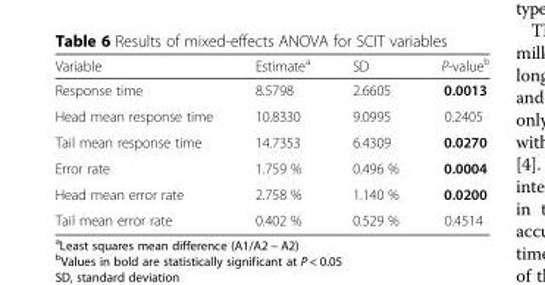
<table><thead><tr><td>Variable</td><td>Estimate<sup>a</sup></td><td>SD</td><td>P-value<sup>b</sup></td></tr></thead><tbody><tr><td>Response time</td><td>8.5798</td><td>2.6605</td><td>0.0013</td></tr><tr><td>Head mean response time</td><td>10.8330</td><td>9.0995</td><td>0.2405</td></tr><tr><td>Tail mean response time</td><td>14.7353</td><td>6.4309</td><td>0.0270</td></tr><tr><td>Error rate</td><td>1.759 %</td><td>0.496 %</td><td>0.0004</td></tr><tr><td>Head mean error rate</td><td>2.758 %</td><td>1.140 %</td><td>0.0200</td></tr><tr><td>Tail mean error rate</td><td>0.402 %</td><td>0.529 %</td><td>0.4514</td></tr></tbody></table>